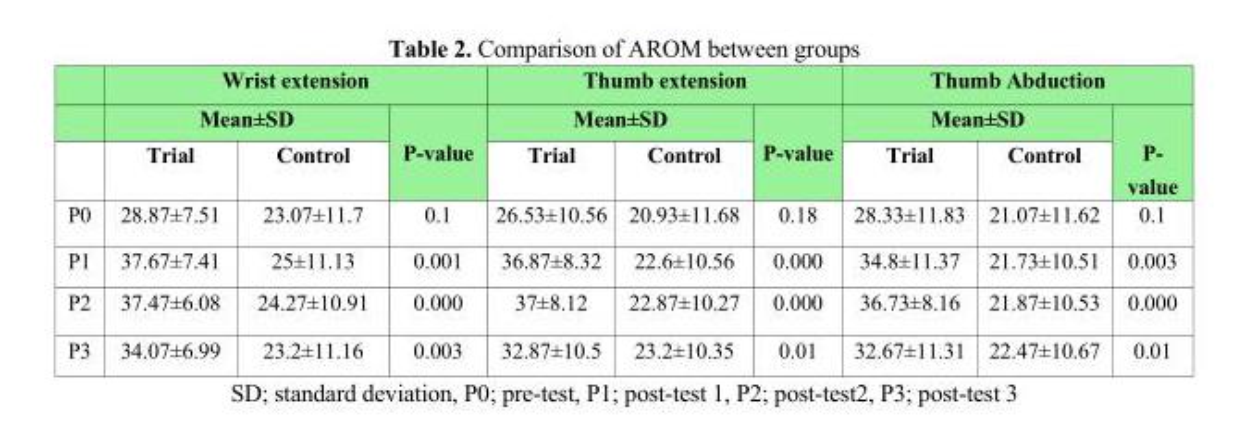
<table><thead><tr><td rowspan="3"></td><td colspan="3">Wrist extension</td><td colspan="3">Thumb extension</td><td colspan="3">Thumb Abduction</td></tr><tr><td colspan="2">Mean±SD</td><td rowspan="2">P<sub>-value</sub></td><td colspan="2">Mean±SD</td><td rowspan="2">P<sub>-value</sub></td><td colspan="2">Mean±SD</td><td rowspan="2">P<sub>- value</sub></td></tr><tr><td>Trial</td><td>Control</td><td>Trial</td><td>Control</td><td>Trial</td><td>Control</td></tr></thead><tbody><tr><td>P0</td><td>28.87±7.51</td><td>23.07±11.7</td><td>0.1</td><td>26.53±10.56</td><td>20.93±11.68</td><td>0.18</td><td>28.33±11.83</td><td>21.07±11.62</td><td>0.1</td></tr><tr><td>P1</td><td>37.67±7.41</td><td>25±11.13</td><td>0.001</td><td>36.87±8.32</td><td>22.6±10.56</td><td>0.000</td><td>34.8±11.37</td><td>21.73±10.51</td><td>0.003</td></tr><tr><td>P2</td><td>37.47±6.08</td><td>24.27±10.91</td><td>0.000</td><td>37±8.12</td><td>22.87±10.27</td><td>0.000</td><td>36.73±8.16</td><td>21.87±10.53</td><td>0.000</td></tr><tr><td>P3</td><td>34.07±6.99</td><td>23.2±11.16</td><td>0.003</td><td>32.87±10.5</td><td>23.2±10.35</td><td>0.01</td><td>32.67±11.31</td><td>22.47±10.67</td><td>0.01</td></tr></tbody></table>